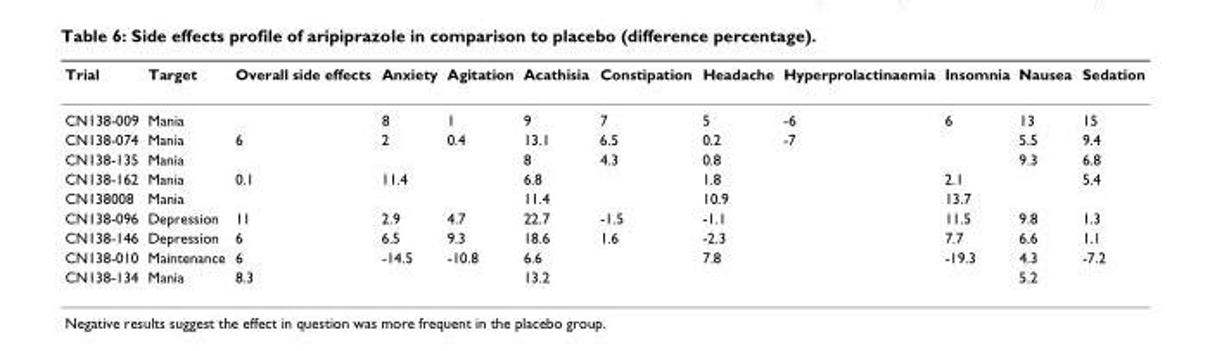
<table><thead><tr><td>Trial</td><td>Target</td><td>Overall side effects</td><td>Anxiety</td><td>Agitation</td><td>Acathisia</td><td>Constipation</td><td>Headache</td><td>Hyperprolactinaemia</td><td>Insomnia</td><td>Nausea</td><td>Sedation</td></tr></thead><tbody><tr><td>CN138-009</td><td>Mania</td><td></td><td>8</td><td>1</td><td>9</td><td>7</td><td>5</td><td>-6</td><td>6</td><td>13</td><td>15</td></tr><tr><td>CN138-074</td><td>Mania</td><td>6</td><td>2</td><td>0.4</td><td>13.1</td><td>6.5</td><td>0.2</td><td>-7</td><td></td><td>5.5</td><td>9.4</td></tr><tr><td>CN138-135</td><td>Mania</td><td></td><td></td><td></td><td>8</td><td>4.3</td><td>0.8</td><td></td><td></td><td>9.3</td><td>6.8</td></tr><tr><td>CN138-162</td><td>Mania</td><td>0.1</td><td>11.4</td><td></td><td>6.8</td><td></td><td>1.8</td><td></td><td>2.1</td><td></td><td>5.4</td></tr><tr><td>CN138008</td><td>Mania</td><td></td><td></td><td></td><td>11.4</td><td></td><td>10.9</td><td></td><td>13.7</td><td></td><td></td></tr><tr><td>CN138-096</td><td>Depression</td><td>11</td><td>2.9</td><td>4.7</td><td>22.7</td><td>-1.5</td><td>-1.1</td><td></td><td>11.5</td><td>9.8</td><td>1.3</td></tr><tr><td>CN138-146</td><td>Depression</td><td>6</td><td>6.5</td><td>9.3</td><td>18.6</td><td>1.6</td><td>-2.3</td><td></td><td>7.7</td><td>6.6</td><td>1.1</td></tr><tr><td>CN138-010</td><td>Maintenance</td><td>6</td><td>-14.5</td><td>-10.8</td><td>6.6</td><td></td><td>7.8</td><td></td><td>-19.3</td><td>4.3</td><td>-7.2</td></tr><tr><td>CN138-134</td><td>Mania</td><td>8.3</td><td></td><td></td><td>13.2</td><td></td><td></td><td></td><td></td><td>5.2</td><td></td></tr></tbody></table>